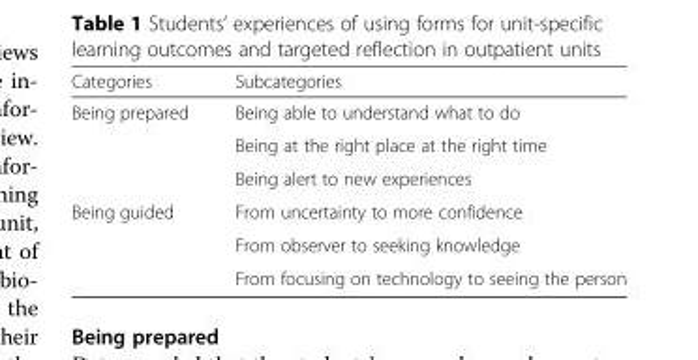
<table><thead><tr><td>Categories</td><td>Subcategories</td></tr></thead><tbody><tr><td rowspan="3">Being prepared</td><td>Being able to understand what to do</td></tr><tr><td>Being at the right place at the right time</td></tr><tr><td>Being alert to new experiences</td></tr><tr><td rowspan="3">Being guided</td><td>From uncertainty to more confidence</td></tr><tr><td>From observer to seeking knowledge</td></tr><tr><td>From focusing on technology to seeing the person</td></tr></tbody></table>